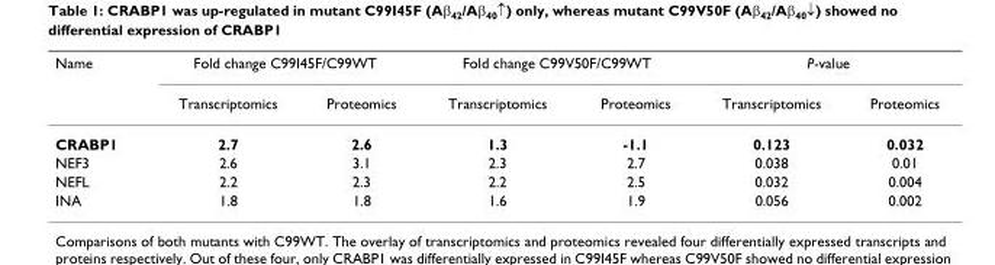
<table><thead><tr><td rowspan="2">Name</td><td colspan="2">Fold change C99I45F/C99WT</td><td colspan="2">Fold change C99V50F/C99WT</td><td colspan="2">P-value</td></tr><tr><td>Transcriptomics</td><td>Proteomics</td><td>Transcriptomics</td><td>Proteomics</td><td>Transcriptomics</td><td>Proteomics</td></tr></thead><tbody><tr><td>CRABP1</td><td>2.7</td><td>2.6</td><td>1.3</td><td>-1.1</td><td>0.123</td><td>0.032</td></tr><tr><td>NEF3</td><td>2.6</td><td>3.1</td><td>2.3</td><td>2.7</td><td>0.038</td><td>0.01</td></tr><tr><td>NEFL</td><td>2.2</td><td>2.3</td><td>2.2</td><td>2.5</td><td>0.032</td><td>0.004</td></tr><tr><td>INA</td><td>1.8</td><td>1.8</td><td>1.6</td><td>1.9</td><td>0.056</td><td>0.002</td></tr></tbody></table>